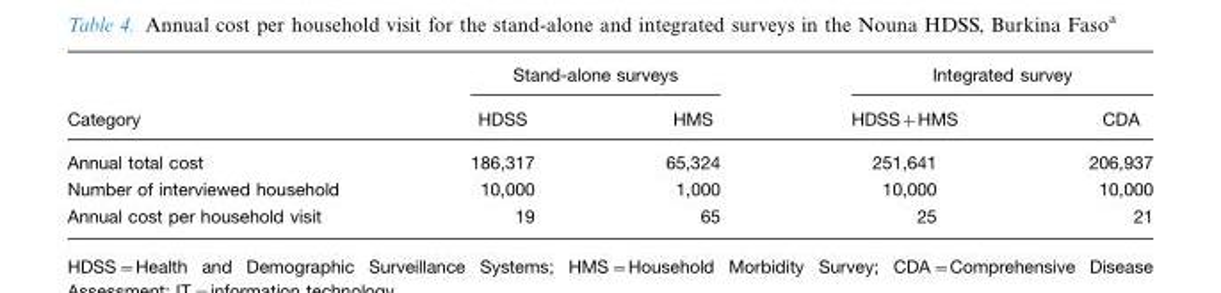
<table><thead><tr><td rowspan="2">Category</td><td colspan="2">Stand-alone surveys</td><td colspan="2">Integrated survey</td></tr><tr><td>HDSS</td><td>HMS</td><td>HDSS+HMS</td><td>CDA</td></tr></thead><tbody><tr><td>Annual total cost</td><td>186,317</td><td>65,324</td><td>251,641</td><td>206,937</td></tr><tr><td>Number of interviewed household</td><td>10,000</td><td>1,000</td><td>10,000</td><td>10,000</td></tr><tr><td>Annual cost per household visit</td><td>19</td><td>65</td><td>25</td><td>21</td></tr></tbody></table>